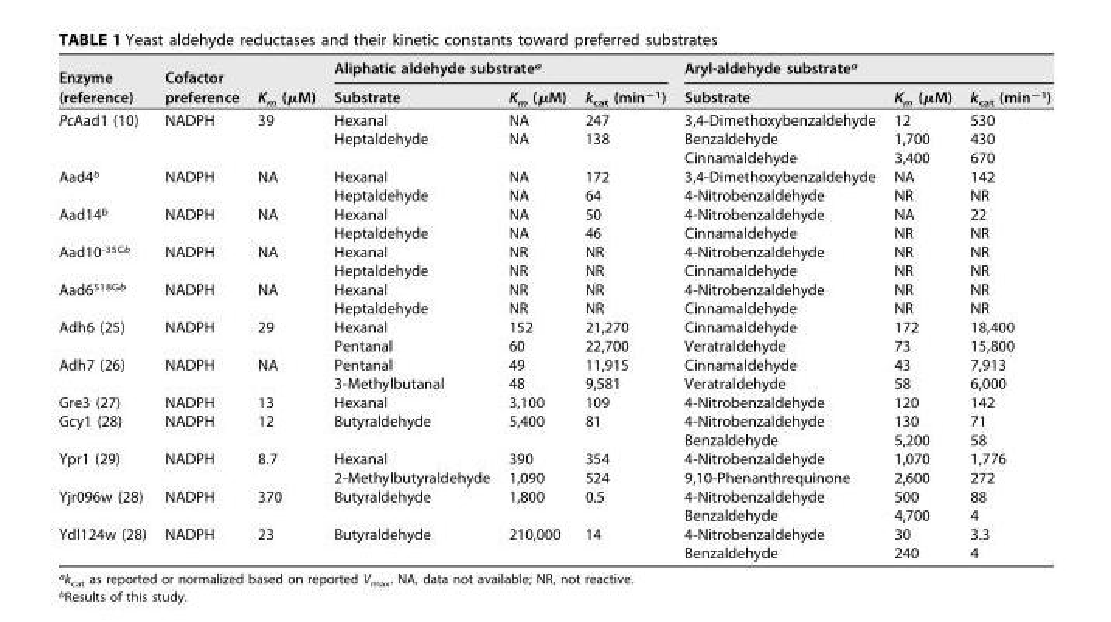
<table><thead><tr><td rowspan="2">Enzyme (reference)</td><td rowspan="2">Cofactor preference</td><td rowspan="2">K<sub>m</sub> (μM)</td><td colspan="3">Aliphatic aldehyde substrate<sup>a</sup></td><td colspan="3">Aryl-aldehyde substrate<sup>a</sup></td></tr><tr><td>Substrate</td><td>K<sub>m</sub> (μM)</td><td>k<sub>cat</sub> (min<sup>−1</sup>)</td><td>Substrate</td><td>K<sub>m</sub> (μM)</td><td>k<sub>cat</sub> (min<sup>−1</sup>)</td></tr></thead><tbody><tr><td rowspan="3">PcAad1 (10)</td><td>NADPH</td><td>39</td><td>Hexanal</td><td>NA</td><td>247</td><td>3,4-Dimethoxybenzaldehyde</td><td>12</td><td>530</td></tr><tr><td></td><td></td><td>Heptaldehyde</td><td>NA</td><td>138</td><td>Benzaldehyde</td><td>1,700</td><td>430</td></tr><tr><td></td><td></td><td></td><td></td><td></td><td>Cinnamaldehyde</td><td>3,400</td><td>670</td></tr><tr><td rowspan="2">Aad4<sup>b</sup></td><td>NADPH</td><td>NA</td><td>Hexanal</td><td>NA</td><td>172</td><td>3,4-Dimethoxybenzaldehyde</td><td>NA</td><td>142</td></tr><tr><td></td><td></td><td>Heptaldehyde</td><td>NA</td><td>64</td><td>4-Nitrobenzaldehyde</td><td>NR</td><td>NR</td></tr><tr><td rowspan="2">Aad14<sup>b</sup></td><td>NADPH</td><td>NA</td><td>Hexanal</td><td>NA</td><td>50</td><td>4-Nitrobenzaldehyde</td><td>NA</td><td>22</td></tr><tr><td></td><td></td><td>Heptaldehyde</td><td>NA</td><td>46</td><td>Cinnamaldehyde</td><td>NR</td><td>NR</td></tr><tr><td rowspan="2">Aad10<sup>-35Cb</sup></td><td>NADPH</td><td>NA</td><td>Hexanal</td><td>NR</td><td>NR</td><td>4-Nitrobenzaldehyde</td><td>NR</td><td>NR</td></tr><tr><td></td><td></td><td>Heptaldehyde</td><td>NR</td><td>NR</td><td>Cinnamaldehyde</td><td>NR</td><td>NR</td></tr><tr><td rowspan="2">Aad6<sup>518Gb</sup></td><td>NADPH</td><td>NA</td><td>Hexanal</td><td>NR</td><td>NR</td><td>4-Nitrobenzaldehyde</td><td>NR</td><td>NR</td></tr><tr><td></td><td></td><td>Heptaldehyde</td><td>NR</td><td>NR</td><td>Cinnamaldehyde</td><td>NR</td><td>NR</td></tr><tr><td rowspan="2">Adh6 (25)</td><td>NADPH</td><td>29</td><td>Hexanal</td><td>152</td><td>21,270</td><td>Cinnamaldehyde</td><td>172</td><td>18,400</td></tr><tr><td></td><td></td><td>Pentanal</td><td>60</td><td>22,700</td><td>Veratraldehyde</td><td>73</td><td>15,800</td></tr><tr><td rowspan="2">Adh7 (26)</td><td>NADPH</td><td>NA</td><td>Pentanal</td><td>49</td><td>11,915</td><td>Cinnamaldehyde</td><td>43</td><td>7,913</td></tr><tr><td></td><td></td><td>3-Methylbutanal</td><td>48</td><td>9,581</td><td>Veratraldehyde</td><td>58</td><td>6,000</td></tr><tr><td>Gre3 (27)</td><td>NADPH</td><td>13</td><td>Hexanal</td><td>3,100</td><td>109</td><td>4-Nitrobenzaldehyde</td><td>120</td><td>142</td></tr><tr><td rowspan="2">Gcy1 (28)</td><td>NADPH</td><td>12</td><td>Butyraldehyde</td><td>5,400</td><td>81</td><td>4-Nitrobenzaldehyde</td><td>130</td><td>71</td></tr><tr><td></td><td></td><td></td><td></td><td></td><td>Benzaldehyde</td><td>5,200</td><td>58</td></tr><tr><td rowspan="2">Ypr1 (29)</td><td>NADPH</td><td>8.7</td><td>Hexanal</td><td>390</td><td>354</td><td>4-Nitrobenzaldehyde</td><td>1,070</td><td>1,776</td></tr><tr><td></td><td></td><td>2-Methylbutyraldehyde</td><td>1,090</td><td>524</td><td>9,10-Phenanthrequinone</td><td>2,600</td><td>272</td></tr><tr><td rowspan="2">Yjr096w (28)</td><td>NADPH</td><td>370</td><td>Butyraldehyde</td><td>1,800</td><td>0.5</td><td>4-Nitrobenzaldehyde</td><td>500</td><td>88</td></tr><tr><td></td><td></td><td></td><td></td><td></td><td>Benzaldehyde</td><td>4,700</td><td>4</td></tr><tr><td rowspan="2">Ydl124w (28)</td><td>NADPH</td><td>23</td><td>Butyraldehyde</td><td>210,000</td><td>14</td><td>4-Nitrobenzaldehyde</td><td>30</td><td>3.3</td></tr><tr><td></td><td></td><td></td><td></td><td></td><td>Benzaldehyde</td><td>240</td><td>4</td></tr></tbody></table>